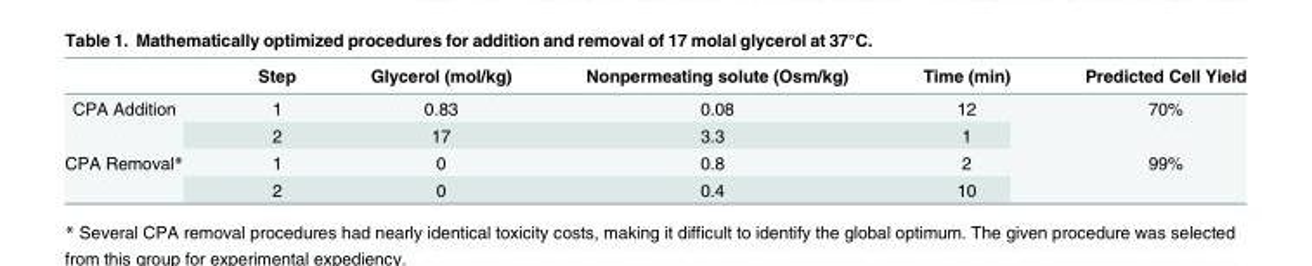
<table><thead><tr><td></td><td>Step</td><td>Glycerol (mol/kg)</td><td>Nonpermeating solute (Osm/kg)</td><td>Time (min)</td><td>Predicted Cell Yield</td></tr></thead><tbody><tr><td rowspan="2">CPA Addition</td><td>1</td><td>0.83</td><td>0.08</td><td>12</td><td rowspan="2">70%</td></tr><tr><td>2</td><td>17</td><td>3.3</td><td>1</td></tr><tr><td rowspan="2">CPA Removal*</td><td>1</td><td>0</td><td>0.8</td><td>2</td><td rowspan="2">99%</td></tr><tr><td>2</td><td>0</td><td>0.4</td><td>10</td></tr></tbody></table>